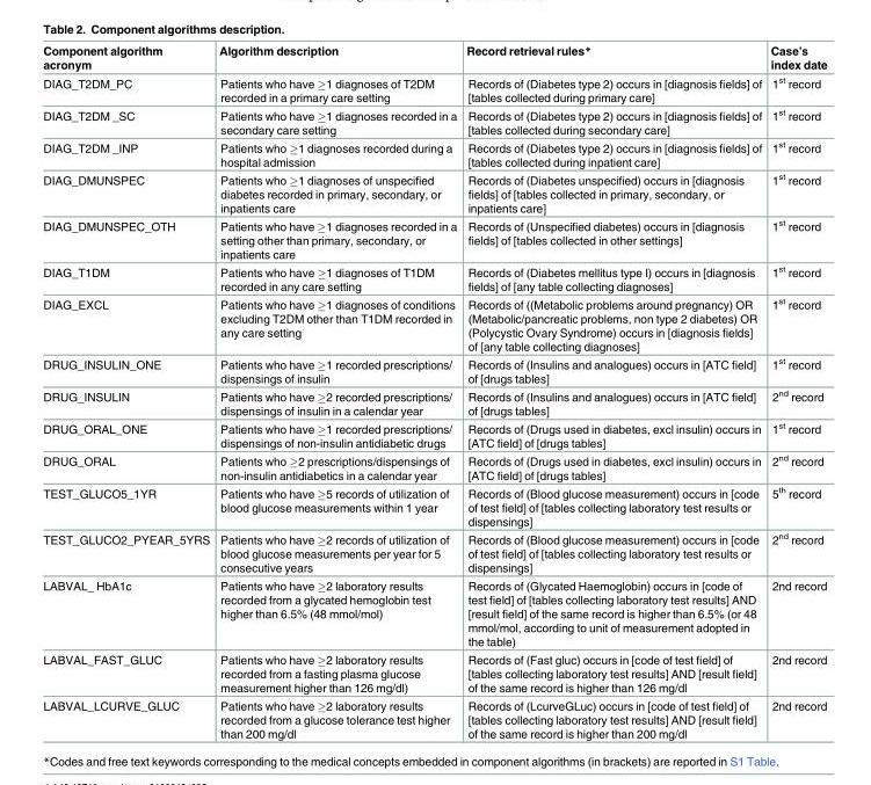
<table><thead><tr><td>Component algorithm acronym</td><td>Algorithm description</td><td>Record retrieval rules*</td><td>Case’s index date</td></tr></thead><tbody><tr><td>DIAG_T2DM_PC</td><td>Patients who have ≥1 diagnoses of T2DM recorded in a primary care setting</td><td>Records of (Diabetes type 2) occurs in [diagnosis fields] of [tables collected during primary care]</td><td>1<sup>st</sup> record</td></tr><tr><td>DIAG_T2DM _SC</td><td>Patients who have ≥1 diagnoses recorded in a secondary care setting</td><td>Records of (Diabetes type 2) occurs in [diagnosis fields] of [tables collected during secondary care]</td><td>1<sup>st</sup> record</td></tr><tr><td>DIAG_T2DM _INP</td><td>Patients who ≥1 diagnoses recorded during a hospital admission</td><td>Records of (Diabetes type 2) occurs in [diagnosis fields] of [tables collected during inpatient care]</td><td>1<sup>st</sup> record</td></tr><tr><td>DIAG_DMUNSPEC</td><td>Patients who ≥1 diagnoses of unspecified diabetes recorded in primary, secondary, or inpatients care</td><td>Records of (Diabetes unspecified) occurs in [diagnosis fields] of [tables collected in primary, secondary, or inpatients care]</td><td>1<sup>st</sup> record</td></tr><tr><td>DIAG_DMUNSPEC_OTH</td><td>Patients who have ≥1 diagnoses recorded in a setting other than primary, secondary, or inpatients care</td><td>Records of (Unspecified diabetes) occurs in [diagnosis fields] of [tables collected in other settings]</td><td>1<sup>st</sup> record</td></tr><tr><td>DIAG_T1DM</td><td>Patients who have ≥1 diagnoses of T1DM recorded in any care setting</td><td>Records of (Diabetes mellitus type I) occurs in [diagnosis fields] of [any table collecting diagnoses]</td><td>1<sup>st</sup> record</td></tr><tr><td>DIAG_EXCL</td><td>Patients who have ≥1 diagnoses of conditions excluding T2DM other than T1DM recorded in any care setting</td><td>Records of ((Metabolic problems around pregnancy) OR (Metabolic/pancreatic problems, non type 2 diabetes) OR (Polycystic Ovary Syndrome) occurs in [diagnosis fields] of [any table collecting diagnoses]</td><td>1<sup>st</sup> record</td></tr><tr><td>DRUG_INSULIN_ONE</td><td>Patients who have ≥1 recorded prescriptions/ dispensings of insulin</td><td>Records of (Insulins and analogues) occurs in [ATC field] of [drugs tables]</td><td>1<sup>st</sup> record</td></tr><tr><td>DRUG_INSULIN</td><td>Patients who have ≥2 recorded prescriptions/ dispensings of insulin in a calendar year</td><td>Records of (Insulins and analogues) occurs in [ATC field] of [drugs tables]</td><td>2<sup>nd</sup> record</td></tr><tr><td>DRUG_ORAL_ONE</td><td>Patients who have ≥1 recorded prescriptions/ dispensings of non-insulin antidiabetic drugs</td><td>Records of (Drugs used in diabetes, excl insulin) occurs in [ATC field] of [drugs tables]</td><td>1<sup>st</sup> record</td></tr><tr><td>DRUG_ORAL</td><td>Patients who ≥2 prescriptions/dispensings of non-insulin antidiabetics in a calendar year</td><td>Records of (Drugs used in diabetes, excl insulin) occurs in [ATC field] of [drugs tables]</td><td>2<sup>nd</sup> record</td></tr><tr><td>TEST_GLUCO5_1YR</td><td>Patients who have ≥5 records of utilization of blood glucose measurements within 1 year</td><td>Records of (Blood glucose measurement) occurs in [code of test field] of [tables collecting laboratory test results or dispensings]</td><td>5<sup>th</sup> record</td></tr><tr><td>TEST_GLUCO2_PYEAR_5YRS</td><td>Patients who have ≥2 records of utilization of blood glucose measurements per year for 5 consecutive years</td><td>Records of (Blood glucose measurement) occurs in [code of test field] of [tables collecting laboratory test results or dispensings]</td><td>2<sup>nd</sup> record</td></tr><tr><td>LABVAL_ HbA1c</td><td>Patients who have ≥2 laboratory results recorded from a glycated hemoglobin test higher than 6.5% (48 mmol/mol)</td><td>Records of (Glycated Haemoglobin) occurs in [code of test field] of [tables collecting laboratory test results] AND [result field] of the same record is higher than 6.5% (or 48 mmol/mol, according to unit of measurement adopted in the table)</td><td>2nd record</td></tr><tr><td>LABVAL_FAST_GLUC</td><td>Patients who have ≥2 laboratory results recorded from a fasting plasma glucose measurement higher than 126 mg/dl)</td><td>Records of (Fast gluc) occurs in [code of test field] of [tables collecting laboratory test results] AND [result field] of the same record is higher than 126 mg/dl</td><td>2nd record</td></tr><tr><td>LABVAL_LCURVE_GLUC</td><td>Patients who have ≥2 laboratory results recorded from a glucose tolerance test higher than 200 mg/dl</td><td>Records of (LcurveGLuc) occurs in [code of test field] of [tables collecting laboratory test results] AND [result field] of the same record is higher than 200 mg/dl</td><td>2nd record</td></tr></tbody></table>